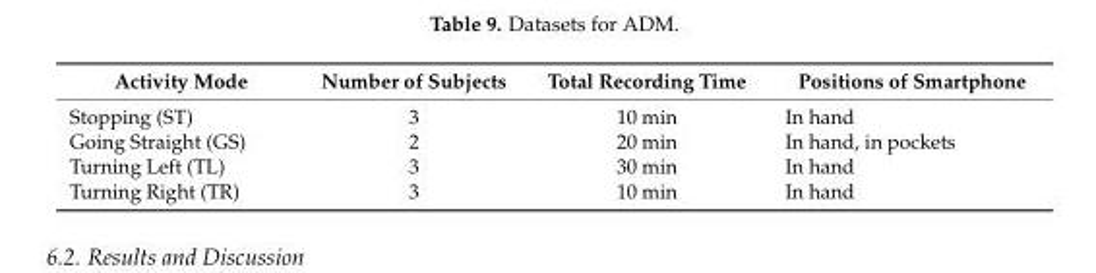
<table><thead><tr><td>Activity Mode</td><td>Number of Subjects</td><td>Total Recording Time</td><td>Positions of Smartphone</td></tr></thead><tbody><tr><td>Stopping (ST)</td><td>3</td><td>10 min</td><td>In hand</td></tr><tr><td>Going Straight (GS)</td><td>2</td><td>20 min</td><td>In hand, in pockets</td></tr><tr><td>Turning Left (TL)</td><td>3</td><td>30 min</td><td>In hand</td></tr><tr><td>Turning Right (TR)</td><td>3</td><td>10 min</td><td>In hand</td></tr></tbody></table>